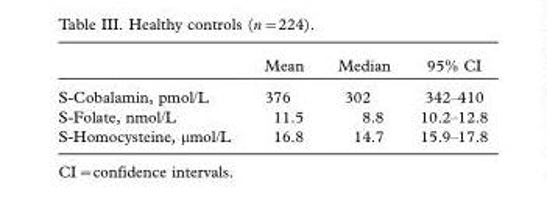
<table><thead><tr><td></td><td>Mean</td><td>Median</td><td>95% CI</td></tr></thead><tbody><tr><td>S-Cobalamin, pmol/L</td><td>376</td><td>302</td><td>342–410</td></tr><tr><td>S-Folate, nmol/L</td><td>11.5</td><td>8.8</td><td>10.2–12.8</td></tr><tr><td>S-Homocysteine, µmol/L</td><td>16.8</td><td>14.7</td><td>15.9–17.8</td></tr></tbody></table>